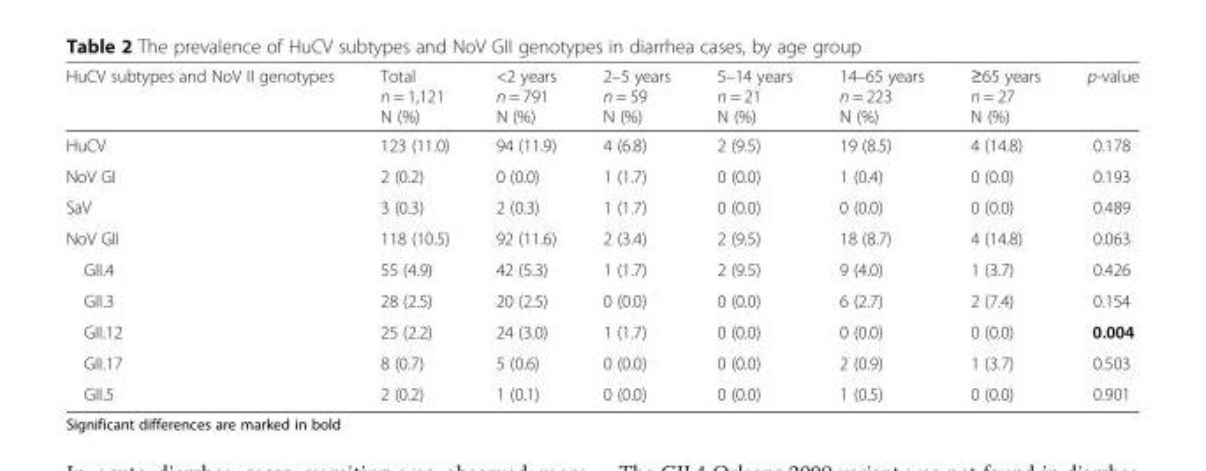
<table><thead><tr><td>HuCV subtypes and NoV II genotypes</td><td>Total n = 1,121 N (%)</td><td>&lt;2 years n = 791 N (%)</td><td>2–5 years n = 59 N (%)</td><td>5–14 years n = 21 N (%)</td><td>14–65 years n = 223 N (%)</td><td>≥65 years n = 27 N (%)</td><td>p-value</td></tr></thead><tbody><tr><td>HuCV</td><td>123 (11.0)</td><td>94 (11.9)</td><td>4 (6.8)</td><td>2 (9.5)</td><td>19 (8.5)</td><td>4 (14.8)</td><td>0.178</td></tr><tr><td>NoV GI</td><td>2 (0.2)</td><td>0 (0.0)</td><td>1 (1.7)</td><td>0 (0.0)</td><td>1 (0.4)</td><td>0 (0.0)</td><td>0.193</td></tr><tr><td>SaV</td><td>3 (0.3)</td><td>2 (0.3)</td><td>1 (1.7)</td><td>0 (0.0)</td><td>0 (0.0)</td><td>0 (0.0)</td><td>0.489</td></tr><tr><td>NoV GII</td><td>118 (10.5)</td><td>92 (11.6)</td><td>2 (3.4)</td><td>2 (9.5)</td><td>18 (8.7)</td><td>4 (14.8)</td><td>0.063</td></tr><tr><td>GII.4</td><td>55 (4.9)</td><td>42 (5.3)</td><td>1 (1.7)</td><td>2 (9.5)</td><td>9 (4.0)</td><td>1 (3.7)</td><td>0.426</td></tr><tr><td>GII.3</td><td>28 (2.5)</td><td>20 (2.5)</td><td>0 (0.0)</td><td>0 (0.0)</td><td>6 (2.7)</td><td>2 (7.4)</td><td>0.154</td></tr><tr><td>GII.12</td><td>25 (2.2)</td><td>24 (3.0)</td><td>1 (1.7)</td><td>0 (0.0)</td><td>0 (0.0)</td><td>0 (0.0)</td><td>0.004</td></tr><tr><td>GII.17</td><td>8 (0.7)</td><td>5 (0.6)</td><td>0 (0.0)</td><td>0 (0.0)</td><td>2 (0.9)</td><td>1 (3.7)</td><td>0.503</td></tr><tr><td>GII.5</td><td>2 (0.2)</td><td>1 (0.1)</td><td>0 (0.0)</td><td>0 (0.0)</td><td>1 (0.5)</td><td>0 (0.0)</td><td>0.901</td></tr></tbody></table>